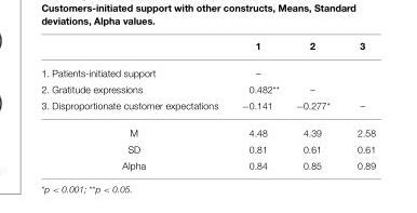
<table><thead><tr><td></td><td>1</td><td>2</td><td>3</td></tr></thead><tbody><tr><td>1. Patients-initiated support</td><td>–</td><td></td><td></td></tr><tr><td>2. Gratitude expressions</td><td>0.482**</td><td>–</td><td></td></tr><tr><td>3. Disproportionate customer expectations</td><td>−0.141</td><td>−0.277*</td><td>–</td></tr><tr><td>M</td><td>4.48</td><td>4.39</td><td>2.58</td></tr><tr><td>SD</td><td>0.81</td><td>0.61</td><td>0.61</td></tr><tr><td>Alpha</td><td>0.84</td><td>0.85</td><td>0.89</td></tr></tbody></table>